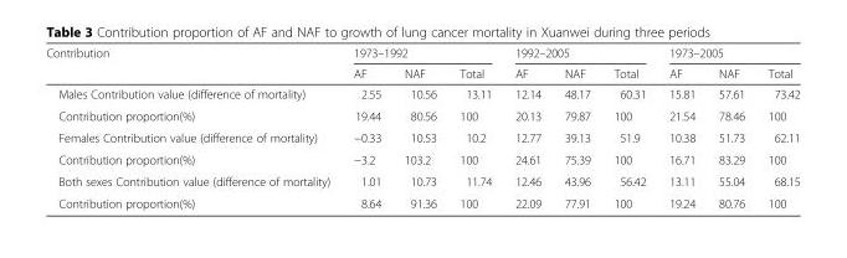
<table><thead><tr><td rowspan="2">Contribution</td><td colspan="3">1973–1992</td><td colspan="3">1992–2005</td><td colspan="3">1973–2005</td></tr><tr><td>AF</td><td>NAF</td><td>Total</td><td>AF</td><td>NAF</td><td>Total</td><td>AF</td><td>NAF</td><td>Total</td></tr></thead><tbody><tr><td>Males Contribution value (difference of mortality)</td><td>2.55</td><td>10.56</td><td>13.11</td><td>12.14</td><td>48.17</td><td>60.31</td><td>15.81</td><td>57.61</td><td>73.42</td></tr><tr><td>Contribution proportion(%)</td><td>19.44</td><td>80.56</td><td>100</td><td>20.13</td><td>79.87</td><td>100</td><td>21.54</td><td>78.46</td><td>100</td></tr><tr><td>Females Contribution value (difference of mortality)</td><td>−0.33</td><td>10.53</td><td>10.2</td><td>12.77</td><td>39.13</td><td>51.9</td><td>10.38</td><td>51.73</td><td>62.11</td></tr><tr><td>Contribution proportion(%)</td><td>−3.2</td><td>103.2</td><td>100</td><td>24.61</td><td>75.39</td><td>100</td><td>16.71</td><td>83.29</td><td>100</td></tr><tr><td>Both sexes Contribution value (difference of mortality)</td><td>1.01</td><td>10.73</td><td>11.74</td><td>12.46</td><td>43.96</td><td>56.42</td><td>13.11</td><td>55.04</td><td>68.15</td></tr><tr><td>Contribution proportion(%)</td><td>8.64</td><td>91.36</td><td>100</td><td>22.09</td><td>77.91</td><td>100</td><td>19.24</td><td>80.76</td><td>100</td></tr></tbody></table>